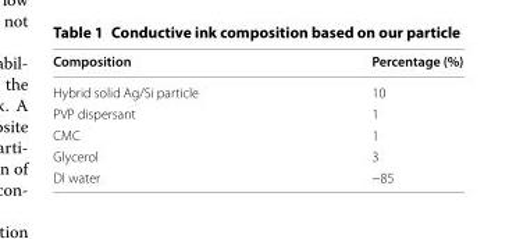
<table><thead><tr><td>Composition</td><td>Percentage (%)</td></tr></thead><tbody><tr><td>Hybrid solid Ag/Si particle</td><td>10</td></tr><tr><td>PVP dispersant</td><td>1</td></tr><tr><td>CMC</td><td>1</td></tr><tr><td>Glycerol</td><td>3</td></tr><tr><td>DI water</td><td>~85</td></tr></tbody></table>